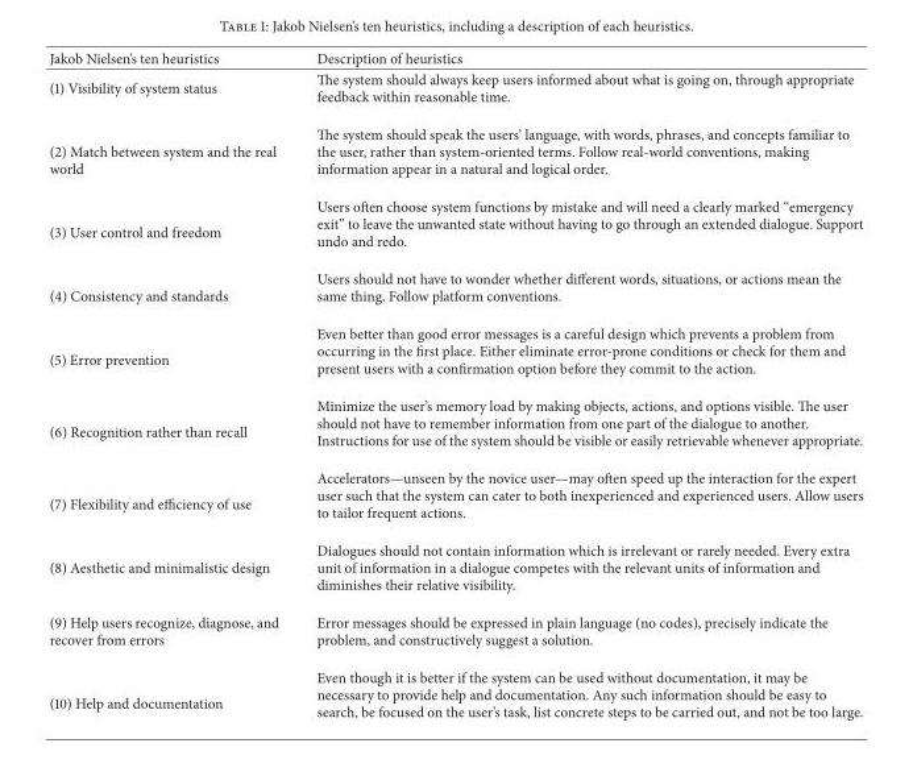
<table><thead><tr><td>Jakob Nielsen’s ten heuristics</td><td>Description of heuristics</td></tr></thead><tbody><tr><td>(1) Visibility of system status</td><td>The system should always keep users informed about what is going on, through appropriate feedback within reasonable time.</td></tr><tr><td>(2) Match between system and the real world</td><td>The system should speak the users’ language, with words, phrases, and concepts familiar to the user, rather than system-oriented terms. Follow real-world conventions, making information appear in a natural and logical order.</td></tr><tr><td>(3) User control and freedom</td><td>Users often choose system functions by mistake and will need a clearly marked “emergency exit” to leave the unwanted state without having to go through an extended dialogue. Support undo and redo.</td></tr><tr><td>(4) Consistency and standards</td><td>Users should not have to wonder whether different words, situations, or actions mean the same thing. Follow platform conventions.</td></tr><tr><td>(5) Error prevention</td><td>Even better than good error messages is a careful design which prevents a problem from occurring in the first place. Either eliminate error-prone conditions or check for them and present users with a confirmation option before they commit to the action.</td></tr><tr><td>(6) Recognition rather than recall</td><td>Minimize the user’s memory load by making objects, actions, and options visible. The user should not have to remember information from one part of the dialogue to another. Instructions for use of the system should be visible or easily retrievable whenever appropriate.</td></tr><tr><td>(7) Flexibility and efficiency of use</td><td>Accelerators—unseen by the novice user—may often speed up the interaction for the expert user such that the system can cater to both inexperienced and experienced users. Allow users to tailor frequent actions.</td></tr><tr><td>(8) Aesthetic and minimalistic design</td><td>Dialogues should not contain information which is irrelevant or rarely needed. Every extra unit of information in a dialogue competes with the relevant units of information and diminishes their relative visibility.</td></tr><tr><td>(9) Help users recognize, diagnose, and recover from errors</td><td>Error messages should be expressed in plain language (no codes), precisely indicate the problem, and constructively suggest a solution.</td></tr><tr><td>(10) Help and documentation</td><td>Even though it is better if the system can be used without documentation, it may be necessary to provide help and documentation. Any such information should be easy to search, be focused on the user’s task, list concrete steps to be carried out, and not be too large.</td></tr></tbody></table>